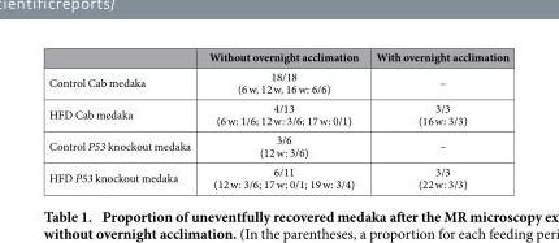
<table><thead><tr><td></td><td>Without overnight acclimation</td><td>With overnight acclimation</td></tr></thead><tbody><tr><td>Control Cab medaka</td><td>18/18 (6 w, 12 w, 16 w: 6/6)</td><td>–</td></tr><tr><td>HFD Cab medaka</td><td>4/13 (6 w: 1/6; 12 w: 3/6; 17 w: 0/1)</td><td>3/3 (16 w: 3/3)</td></tr><tr><td>Control P53 knockout medaka</td><td>3/6 (12 w: 3/6)</td><td>–</td></tr><tr><td>HFD P53 knockout medaka</td><td>6/11 (12 w: 3/6; 17 w: 0/1; 19 w: 3/4)</td><td>3/3 (22 w: 3/3)</td></tr></tbody></table>